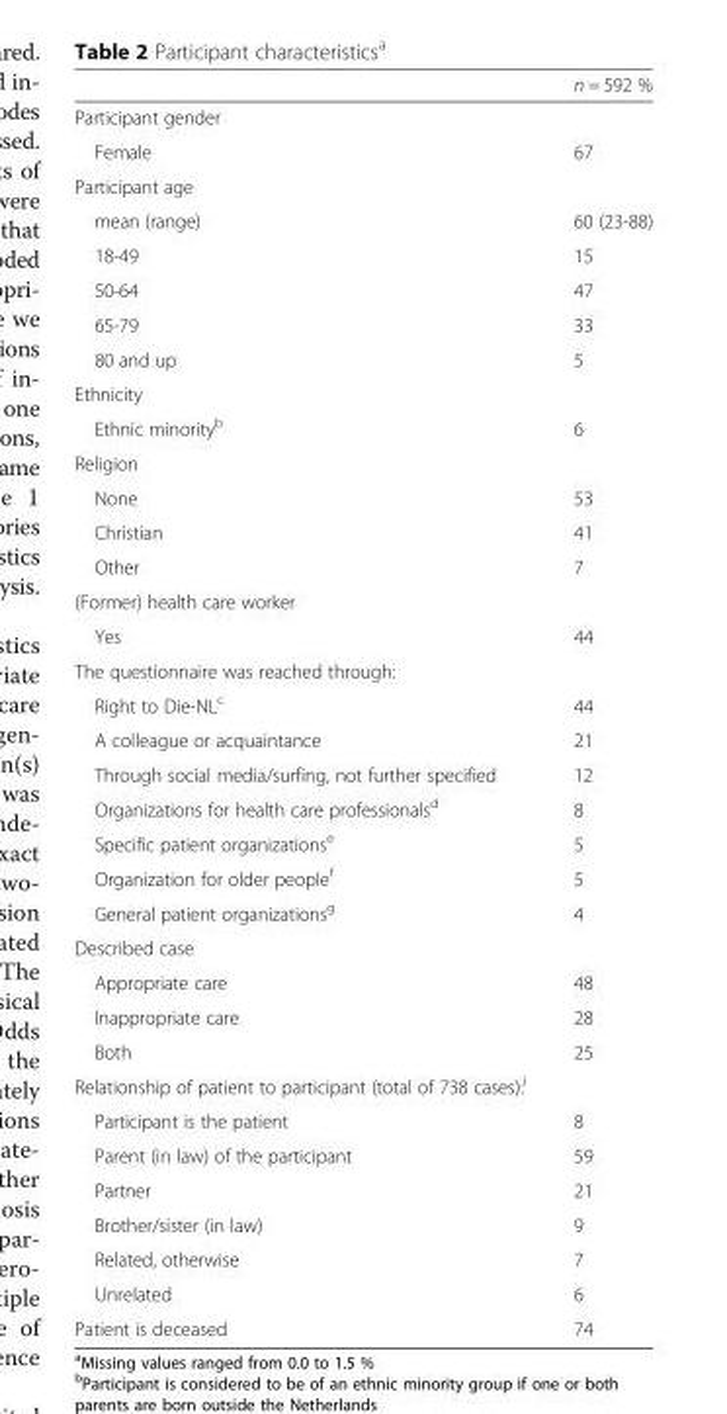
<table><thead><tr><td></td><td>n = 592 %</td></tr></thead><tbody><tr><td colspan="2">Participant gender</td></tr><tr><td>Female</td><td>67</td></tr><tr><td colspan="2">Participant age</td></tr><tr><td>mean (range)</td><td>60 (23-88)</td></tr><tr><td>18-49</td><td>15</td></tr><tr><td>50-64</td><td>47</td></tr><tr><td>65-79</td><td>33</td></tr><tr><td>80 and up</td><td>5</td></tr><tr><td colspan="2">Ethnicity</td></tr><tr><td>Ethnic minority<sup>b</sup></td><td>6</td></tr><tr><td colspan="2">Religion</td></tr><tr><td>None</td><td>53</td></tr><tr><td>Christian</td><td>41</td></tr><tr><td>Other</td><td>7</td></tr><tr><td colspan="2">(Former) health care worker</td></tr><tr><td>Yes</td><td>44</td></tr><tr><td colspan="2">The questionnaire was reached through:</td></tr><tr><td>Right to Die-NL<sup>c</sup></td><td>44</td></tr><tr><td>A colleague or acquaintance</td><td>21</td></tr><tr><td>Through social media/surfing, not further specified</td><td>12</td></tr><tr><td>Organizations for health care professionals<sup>d</sup></td><td>8</td></tr><tr><td>Specific patient organizations<sup>e</sup></td><td>5</td></tr><tr><td>Organization for older people<sup>f</sup></td><td>5</td></tr><tr><td>General patient organizations<sup>g</sup></td><td>4</td></tr><tr><td colspan="2">Described case</td></tr><tr><td>Appropriate care</td><td>48</td></tr><tr><td>Inappropriate care</td><td>28</td></tr><tr><td>Both</td><td>25</td></tr><tr><td colspan="2">Relationship of patient to participant (total of 738 cases):<sup>i</sup></td></tr><tr><td>Participant is the patient</td><td>8</td></tr><tr><td>Parent (in law) of the participant</td><td>59</td></tr><tr><td>Partner</td><td>21</td></tr><tr><td>Brother/sister (in law)</td><td>9</td></tr><tr><td>Related, otherwise</td><td>7</td></tr><tr><td>Unrelated</td><td>6</td></tr><tr><td>Patient is deceased</td><td>74</td></tr></tbody></table>